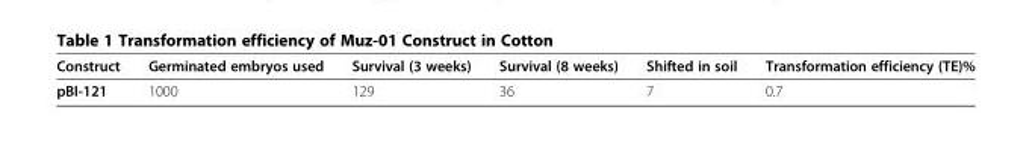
<table><thead><tr><td>Construct</td><td>Germinated embryos used</td><td>Survival (3 weeks)</td><td>Survival (8 weeks)</td><td>Shifted in soil</td><td>Transformation efficiency (TE)%</td></tr></thead><tbody><tr><td>pBI-121</td><td>1000</td><td>129</td><td>36</td><td>7</td><td>0.7</td></tr></tbody></table>